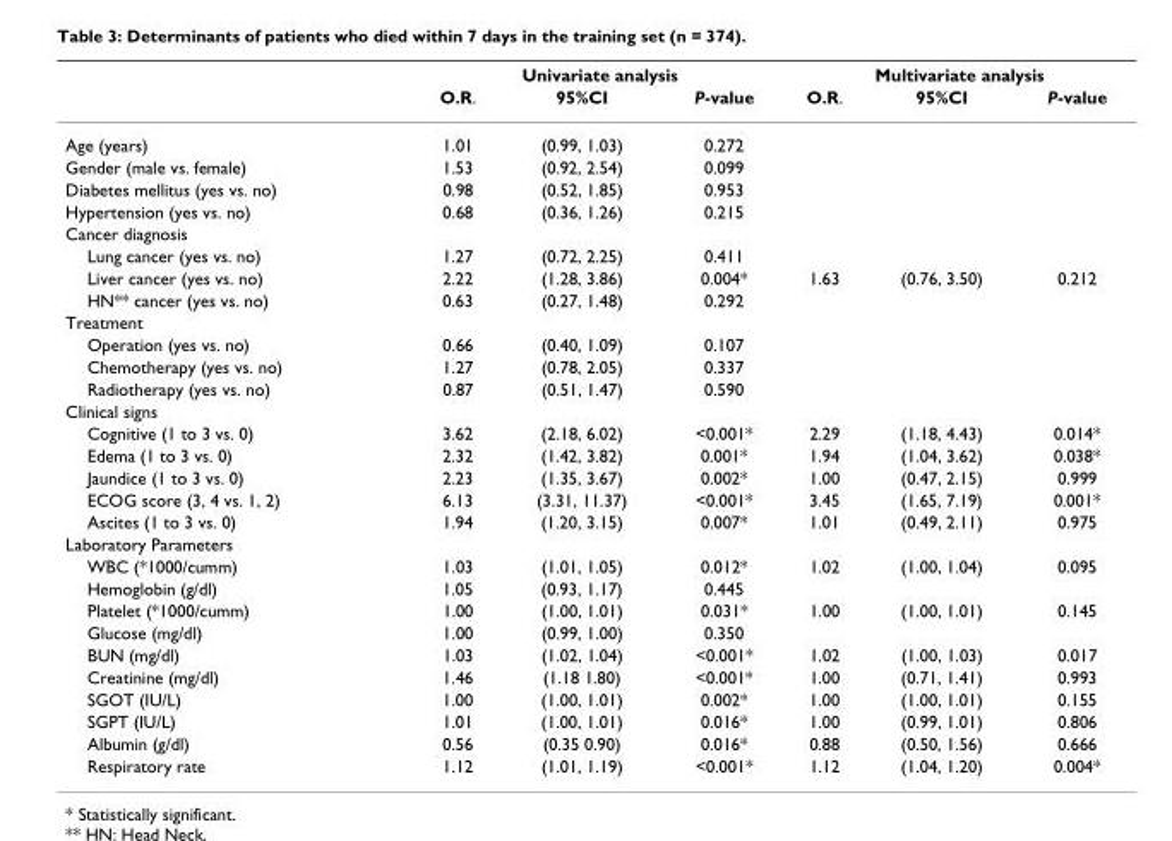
<table><thead><tr><td rowspan="2"></td><td colspan="3">Univariate analysis</td><td colspan="3">Multivariate analysis</td></tr><tr><td>O.R.</td><td>95%CI</td><td>P-value</td><td>O.R.</td><td>95%CI</td><td>P-value</td></tr></thead><tbody><tr><td>Age (years)</td><td>1.01</td><td>(0.99, 1.03)</td><td>0.272</td><td></td><td></td><td></td></tr><tr><td>Gender (male vs. female)</td><td>1.53</td><td>(0.92, 2.54)</td><td>0.099</td><td></td><td></td><td></td></tr><tr><td>Diabetes mellitus (yes vs. no)</td><td>0.98</td><td>(0.52, 1.85)</td><td>0.953</td><td></td><td></td><td></td></tr><tr><td>Hypertension (yes vs. no)</td><td>0.68</td><td>(0.36, 1.26)</td><td>0.215</td><td></td><td></td><td></td></tr><tr><td colspan="7">Cancer diagnosis</td></tr><tr><td>Lung cancer (yes vs. no)</td><td>1.27</td><td>(0.72, 2.25)</td><td>0.411</td><td></td><td></td><td></td></tr><tr><td>Liver cancer (yes vs. no)</td><td>2.22</td><td>(1.28, 3.86)</td><td>0.004*</td><td>1.63</td><td>(0.76, 3.50)</td><td>0.212</td></tr><tr><td>HN** cancer (yes vs. no)</td><td>0.63</td><td>(0.27, 1.48)</td><td>0.292</td><td></td><td></td><td></td></tr><tr><td colspan="7">Treatment</td></tr><tr><td>Operation (yes vs. no)</td><td>0.66</td><td>(0.40, 1.09)</td><td>0.107</td><td></td><td></td><td></td></tr><tr><td>Chemotherapy (yes vs. no)</td><td>1.27</td><td>(0.78, 2.05)</td><td>0.337</td><td></td><td></td><td></td></tr><tr><td>Radiotherapy (yes vs. no)</td><td>0.87</td><td>(0.51, 1.47)</td><td>0.590</td><td></td><td></td><td></td></tr><tr><td colspan="7">Clinical signs</td></tr><tr><td>Cognitive (1 to 3 vs. 0)</td><td>3.62</td><td>(2.18, 6.02)</td><td>&lt;0.001*</td><td>2.29</td><td>(1.18, 4.43)</td><td>0.014*</td></tr><tr><td>Edema (1 to 3 vs. 0)</td><td>2.32</td><td>(1.42, 3.82)</td><td>0.001*</td><td>1.94</td><td>(1.04, 3.62)</td><td>0.038*</td></tr><tr><td>Jaundice (1 to 3 vs. 0)</td><td>2.23</td><td>(1.35, 3.67)</td><td>0.002*</td><td>1.00</td><td>(0.47, 2.15)</td><td>0.999</td></tr><tr><td>ECOG score (3, 4 vs. 1, 2)</td><td>6.13</td><td>(3.31, 11.37)</td><td>&lt;0.001*</td><td>3.45</td><td>(1.65, 7.19)</td><td>0.001*</td></tr><tr><td>Ascites (1 to 3 vs. 0)</td><td>1.94</td><td>(1.20, 3.15)</td><td>0.007*</td><td>1.01</td><td>(0.49, 2.11)</td><td>0.975</td></tr><tr><td colspan="7">Laboratory Parameters</td></tr><tr><td>WBC (*1000/cumm)</td><td>1.03</td><td>(1.01, 1.05)</td><td>0.012*</td><td>1.02</td><td>(1.00, 1.04)</td><td>0.095</td></tr><tr><td>Hemoglobin (g/dl)</td><td>1.05</td><td>(0.93, 1.17)</td><td>0.445</td><td></td><td></td><td></td></tr><tr><td>Platelet (*1000/cumm)</td><td>1.00</td><td>(1.00, 1.01)</td><td>0.031*</td><td>1.00</td><td>(1.00, 1.01)</td><td>0.145</td></tr><tr><td>Glucose (mg/dl)</td><td>1.00</td><td>(0.99, 1.00)</td><td>0.350</td><td></td><td></td><td></td></tr><tr><td>BUN (mg/dl)</td><td>1.03</td><td>(1.02, 1.04)</td><td>&lt;0.001*</td><td>1.02</td><td>(1.00, 1.03)</td><td>0.017</td></tr><tr><td>Creatinine (mg/dl)</td><td>1.46</td><td>(1.18 1.80)</td><td>&lt;0.001*</td><td>1.00</td><td>(0.71, 1.41)</td><td>0.993</td></tr><tr><td>SGOT (IU/L)</td><td>1.00</td><td>(1.00, 1.01)</td><td>0.002*</td><td>1.00</td><td>(1.00, 1.01)</td><td>0.155</td></tr><tr><td>SGPT (IU/L)</td><td>1.01</td><td>(1.00, 1.01)</td><td>0.016*</td><td>1.00</td><td>(0.99, 1.01)</td><td>0.806</td></tr><tr><td>Albumin (g/dl)</td><td>0.56</td><td>(0.35 0.90)</td><td>0.016*</td><td>0.88</td><td>(0.50, 1.56)</td><td>0.666</td></tr><tr><td>Respiratory rate</td><td>1.12</td><td>(1.01, 1.19)</td><td>&lt;0.001*</td><td>1.12</td><td>(1.04, 1.20)</td><td>0.004*</td></tr></tbody></table>